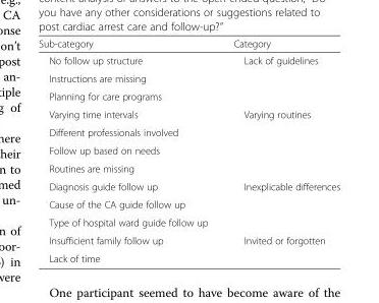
<table><thead><tr><td>Sub-category</td><td>Category</td></tr></thead><tbody><tr><td>No follow up structure</td><td rowspan="3">Lack of guidelines</td></tr><tr><td>Instructions are missing</td></tr><tr><td>Planning for care programs</td></tr><tr><td>Varying time intervals</td><td rowspan="4">Varying routines</td></tr><tr><td>Different professionals involved</td></tr><tr><td>Follow up based on needs</td></tr><tr><td>Routines are missing</td></tr><tr><td>Diagnosis guide follow up</td><td rowspan="3">Inexplicable differences</td></tr><tr><td>Cause of the CA guide follow up</td></tr><tr><td>Type of hospital ward guide follow up</td></tr><tr><td>Insufficient family follow up</td><td rowspan="2">Invited or forgotten</td></tr><tr><td>Lack of time</td></tr></tbody></table>